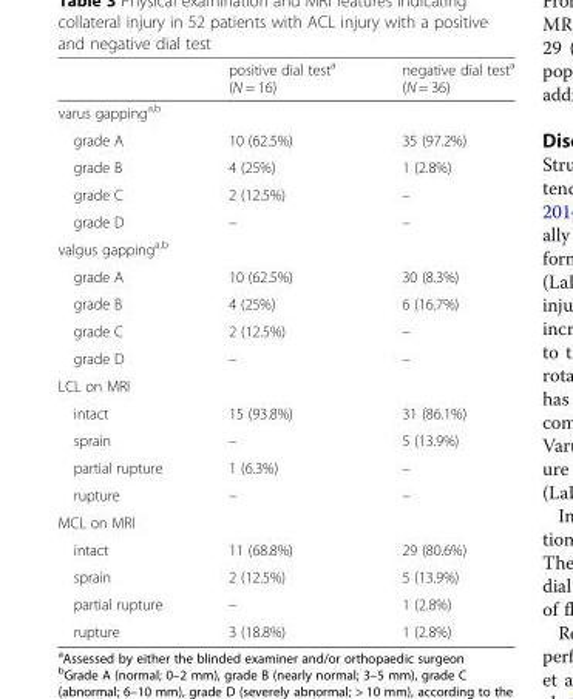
<table><thead><tr><td></td><td>positive dial test<sup>a</sup> (N = 16)</td><td>negative dial test<sup>a</sup> (N = 36)</td></tr></thead><tbody><tr><td colspan="3">varus gapping<sup>a,b</sup></td></tr><tr><td>grade A</td><td>10 (62.5%)</td><td>35 (97.2%)</td></tr><tr><td>grade B</td><td>4 (25%)</td><td>1 (2.8%)</td></tr><tr><td>grade C</td><td>2 (12.5%)</td><td>–</td></tr><tr><td>grade D</td><td>–</td><td>–</td></tr><tr><td colspan="3">valgus gapping<sup>a,b</sup></td></tr><tr><td>grade A</td><td>10 (62.5%)</td><td>30 (8.3%)</td></tr><tr><td>grade B</td><td>4 (25%)</td><td>6 (16.7%)</td></tr><tr><td>grade C</td><td>2 (12.5%)</td><td>–</td></tr><tr><td>grade D</td><td>–</td><td>–</td></tr><tr><td colspan="3">LCL on MRI</td></tr><tr><td>intact</td><td>15 (93.8%)</td><td>31 (86.1%)</td></tr><tr><td>sprain</td><td>–</td><td>5 (13.9%)</td></tr><tr><td>partial rupture</td><td>1 (6.3%)</td><td>–</td></tr><tr><td>rupture</td><td>–</td><td>–</td></tr><tr><td colspan="3">MCL on MRI</td></tr><tr><td>intact</td><td>11 (68.8%)</td><td>29 (80.6%)</td></tr><tr><td>sprain</td><td>2 (12.5%)</td><td>5 (13.9%)</td></tr><tr><td>partial rupture</td><td>–</td><td>1 (2.8%)</td></tr><tr><td>rupture</td><td>3 (18.8%)</td><td>1 (2.8%)</td></tr></tbody></table>